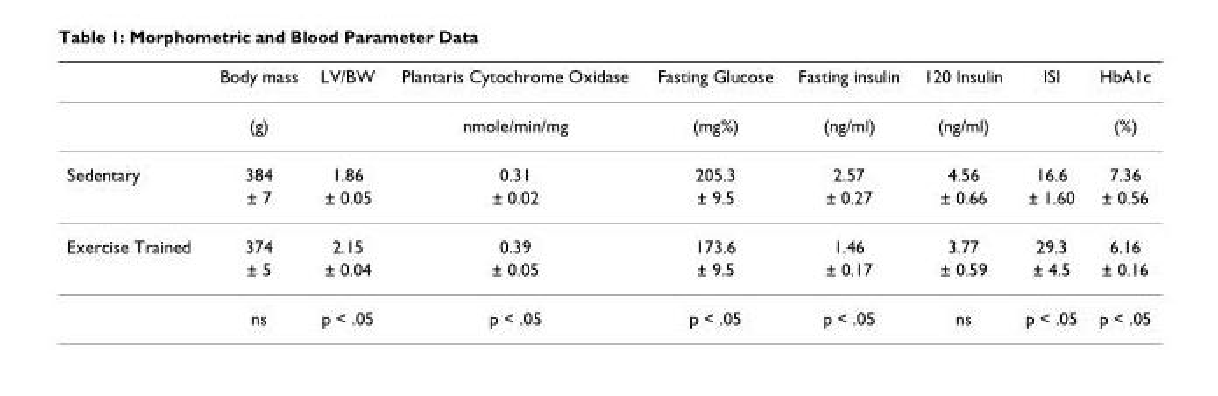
<table><thead><tr><td></td><td>Body mass</td><td>LV/BW</td><td>Plantaris Cytochrome Oxidase</td><td>Fasting Glucose</td><td>Fasting insulin</td><td>120 Insulin</td><td>ISI</td><td>HbA1c</td></tr></thead><tbody><tr><td></td><td>(g)</td><td></td><td>nmole/min/mg</td><td>(mg%)</td><td>(ng/ml)</td><td>(ng/ml)</td><td></td><td>(%)</td></tr><tr><td rowspan="2">Sedentary</td><td>384</td><td>1.86</td><td>0.31</td><td>205.3</td><td>2.57</td><td>4.56</td><td>16.6</td><td>7.36</td></tr><tr><td>± 7</td><td>± 0.05</td><td>± 0.02</td><td>± 9.5</td><td>± 0.27</td><td>± 0.66</td><td>± 1.60</td><td>± 0.56</td></tr><tr><td rowspan="3">Exercise Trained</td><td>374</td><td>2.15</td><td>0.39</td><td>173.6</td><td>1.46</td><td>3.77</td><td>29.3</td><td>6.16</td></tr><tr><td>± 5</td><td>± 0.04</td><td>± 0.05</td><td>± 9.5</td><td>± 0.17</td><td>± 0.59</td><td>± 4.5</td><td>± 0.16</td></tr><tr><td>ns</td><td>p &lt; .05</td><td>p &lt; .05</td><td>p &lt; .05</td><td>p &lt; .05</td><td>ns</td><td>p &lt; .05</td><td>p &lt; .05</td></tr></tbody></table>